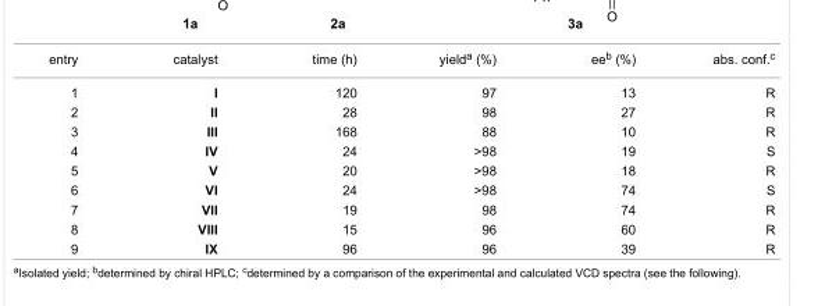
<table><tbody><tr><td>entry</td><td>catalyst</td><td>time (h)</td><td>yield<sup>a</sup> (%)</td><td>ee<sup>b</sup> (%)</td><td>abs. conf.<sup>c</sup></td></tr><tr><td>1</td><td>I</td><td>120</td><td>97</td><td>13</td><td>R</td></tr><tr><td>2</td><td>II</td><td>28</td><td>98</td><td>27</td><td>R</td></tr><tr><td>3</td><td>III</td><td>168</td><td>88</td><td>10</td><td>R</td></tr><tr><td>4</td><td>IV</td><td>24</td><td>&gt;98</td><td>19</td><td>S</td></tr><tr><td>5</td><td>V</td><td>20</td><td>&gt;98</td><td>18</td><td>R</td></tr><tr><td>6</td><td>VI</td><td>24</td><td>&gt;98</td><td>74</td><td>S</td></tr><tr><td>7</td><td>VII</td><td>19</td><td>98</td><td>74</td><td>R</td></tr><tr><td>8</td><td>VIII</td><td>15</td><td>96</td><td>60</td><td>R</td></tr><tr><td>9</td><td>IX</td><td>96</td><td>96</td><td>39</td><td>R</td></tr></tbody></table>